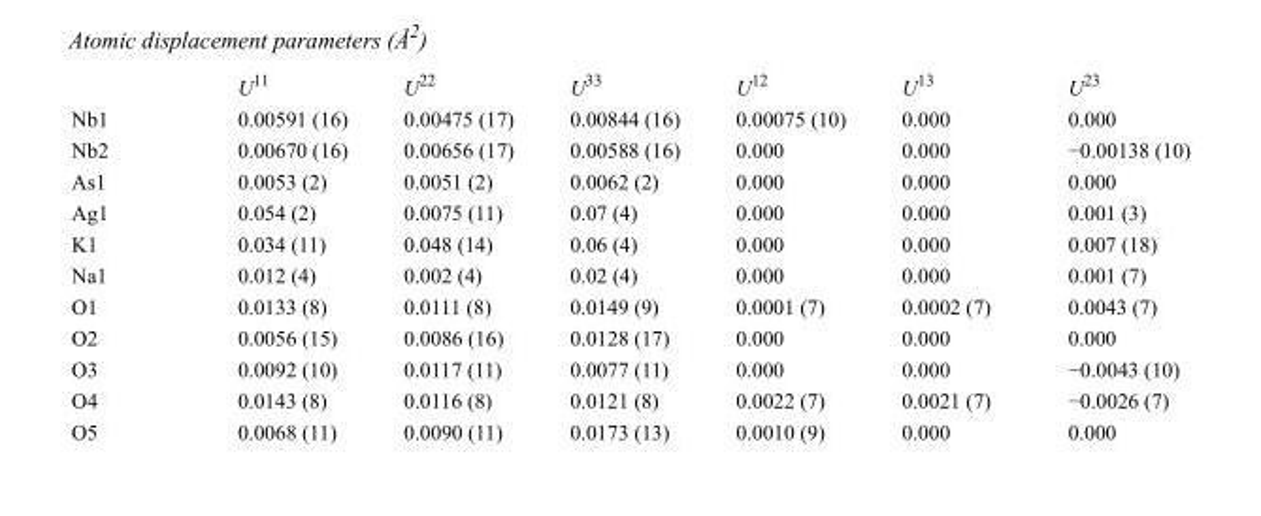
<table><thead><tr><td></td><td>U<sup>11</sup></td><td>U<sup>22</sup></td><td>U<sup>33</sup></td><td>U<sup>12</sup></td><td>U<sup>13</sup></td><td>U<sup>23</sup></td></tr></thead><tbody><tr><td>Nb1</td><td>0.00591 (16)</td><td>0.00475 (17)</td><td>0.00844 (16)</td><td>0.00075 (10)</td><td>0.000</td><td>0.000</td></tr><tr><td>Nb2</td><td>0.00670 (16)</td><td>0.00656 (17)</td><td>0.00588 (16)</td><td>0.000</td><td>0.000</td><td>−0.00138 (10)</td></tr><tr><td>As1</td><td>0.0053 (2)</td><td>0.0051 (2)</td><td>0.0062 (2)</td><td>0.000</td><td>0.000</td><td>0.000</td></tr><tr><td>Ag1</td><td>0.054 (2)</td><td>0.0075 (11)</td><td>0.07 (4)</td><td>0.000</td><td>0.000</td><td>0.001 (3)</td></tr><tr><td>K1</td><td>0.034 (11)</td><td>0.048 (14)</td><td>0.06 (4)</td><td>0.000</td><td>0.000</td><td>0.007 (18)</td></tr><tr><td>Na1</td><td>0.012 (4)</td><td>0.002 (4)</td><td>0.02 (4)</td><td>0.000</td><td>0.000</td><td>0.001 (7)</td></tr><tr><td>O1</td><td>0.0133 (8)</td><td>0.0111 (8)</td><td>0.0149 (9)</td><td>0.0001 (7)</td><td>0.0002 (7)</td><td>0.0043 (7)</td></tr><tr><td>O2</td><td>0.0056 (15)</td><td>0.0086 (16)</td><td>0.0128 (17)</td><td>0.000</td><td>0.000</td><td>0.000</td></tr><tr><td>O3</td><td>0.0092 (10)</td><td>0.0117 (11)</td><td>0.0077 (11)</td><td>0.000</td><td>0.000</td><td>−0.0043 (10)</td></tr><tr><td>O4</td><td>0.0143 (8)</td><td>0.0116 (8)</td><td>0.0121 (8)</td><td>0.0022 (7)</td><td>0.0021 (7)</td><td>−0.0026 (7)</td></tr><tr><td>O5</td><td>0.0068 (11)</td><td>0.0090 (11)</td><td>0.0173 (13)</td><td>0.0010 (9)</td><td>0.000</td><td>0.000</td></tr></tbody></table>